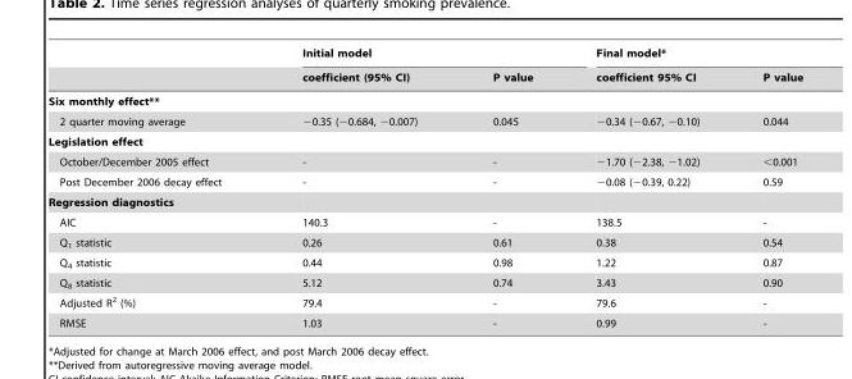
<table><thead><tr><td rowspan="2"></td><td colspan="2">Initial model</td><td colspan="2">Final model*</td></tr><tr><td>coefficient (95% CI)</td><td>P value</td><td>coefficient 95% CI</td><td>P value</td></tr></thead><tbody><tr><td colspan="5">Six monthly effect**</td></tr><tr><td>2 quarter moving average</td><td>−0.35 (−0.684, −0.007)</td><td>0.045</td><td>−0.34 (−0.67, −0.10)</td><td>0.044</td></tr><tr><td colspan="5">Legislation effect</td></tr><tr><td>October/December 2005 effect</td><td>-</td><td>-</td><td>−1.70 (−2.38, −1.02)</td><td>&lt;0.001</td></tr><tr><td>Post December 2006 decay effect</td><td>-</td><td>-</td><td>−0.08 (−0.39, 0.22)</td><td>0.59</td></tr><tr><td colspan="5">Regression diagnostics</td></tr><tr><td>AIC</td><td>140.3</td><td>-</td><td>138.5</td><td>-</td></tr><tr><td>Q<sub>1</sub> statistic</td><td>0.26</td><td>0.61</td><td>0.38</td><td>0.54</td></tr><tr><td>Q<sub>4</sub> statistic</td><td>0.44</td><td>0.98</td><td>1.22</td><td>0.87</td></tr><tr><td>Q<sub>8</sub> statistic</td><td>5.12</td><td>0.74</td><td>3.43</td><td>0.90</td></tr><tr><td>Adjusted R<sup>2</sup> (%)</td><td>79.4</td><td>-</td><td>79.6</td><td>-</td></tr><tr><td>RMSE</td><td>1.03</td><td>-</td><td>0.99</td><td>-</td></tr></tbody></table>